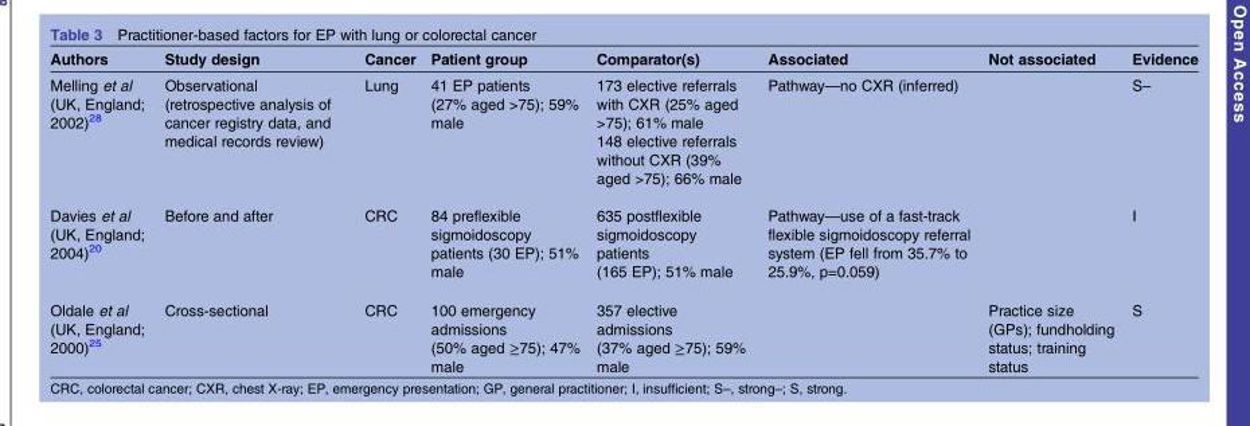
<table><thead><tr><td>Authors</td><td>Study design</td><td>Cancer</td><td>Patient group</td><td>Comparator(s)</td><td>Associated</td><td>Not associated</td><td>Evidence</td></tr></thead><tbody><tr><td>Melling et al (UK, England; 2002)<sup>28</sup></td><td>Observational (retrospective analysis of cancer registry data, and medical records review)</td><td>Lung</td><td>41 EP patients (27% aged &gt;75); 59% male</td><td>173 elective referrals with CXR (25% aged &gt;75); 61% male 148 elective referrals without CXR (39% aged &gt;75); 66% male</td><td>Pathway—no CXR (inferred)</td><td></td><td>S–</td></tr><tr><td>Davies et al (UK, England; 2004)<sup>20</sup></td><td>Before and after</td><td>CRC</td><td>84 preflexible sigmoidoscopy patients (30 EP); 51% male</td><td>635 postflexible sigmoidoscopy patients (165 EP); 51% male</td><td>Pathway—use of a fast-track flexible sigmoidoscopy referral system (EP fell from 35.7% to 25.9%, p=0.059)</td><td></td><td>I</td></tr><tr><td>Oldale et al (UK, England; 2000)<sup>25</sup></td><td>Cross-sectional</td><td>CRC</td><td>100 emergency admissions (50% aged ≥75); 47% male</td><td>357 elective admissions (37% aged ≥75); 59% male</td><td></td><td>Practice size (GPs); fundholding status; training status</td><td>S</td></tr></tbody></table>